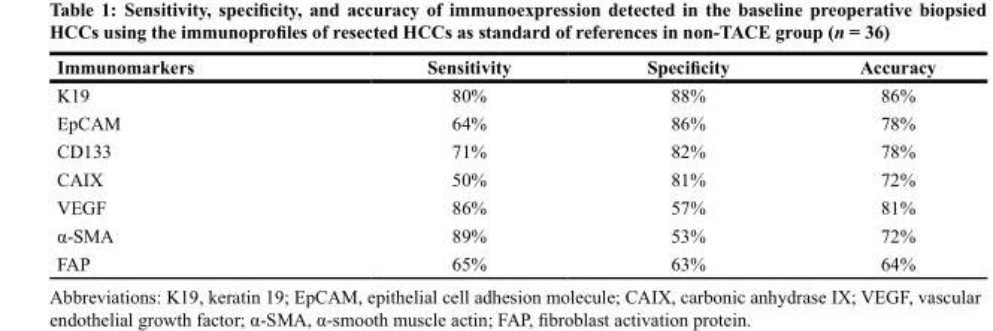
<table><thead><tr><td>Immunomarkers</td><td>Sensitivity</td><td>Specificity</td><td>Accuracy</td></tr></thead><tbody><tr><td>K19</td><td>80%</td><td>88%</td><td>86%</td></tr><tr><td>EpCAM</td><td>64%</td><td>86%</td><td>78%</td></tr><tr><td>CD133</td><td>71%</td><td>82%</td><td>78%</td></tr><tr><td>CAIX</td><td>50%</td><td>81%</td><td>72%</td></tr><tr><td>VEGF</td><td>86%</td><td>57%</td><td>81%</td></tr><tr><td>α-SMA</td><td>89%</td><td>53%</td><td>72%</td></tr><tr><td>FAP</td><td>65%</td><td>63%</td><td>64%</td></tr></tbody></table>